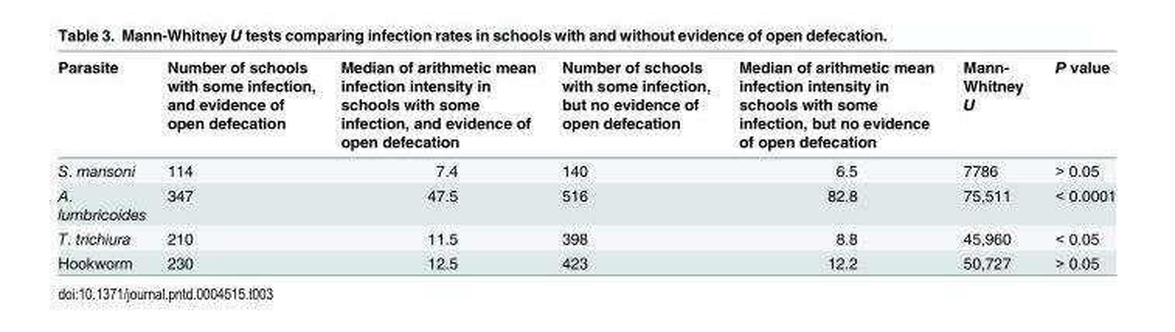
<table><thead><tr><td>Parasite</td><td>Number of schools with some infection, and evidence of open defecation</td><td>Median of arithmetic mean infection intensity in schools with some infection, and evidence of open defecation</td><td>Number of schools with some infection, but no evidence of open defecation</td><td>Median of arithmetic mean infection intensity in schools with some infection, but no evidence of open defecation</td><td>Mann- Whitney U</td><td>P value</td></tr></thead><tbody><tr><td>S. mansoni</td><td>114</td><td>7.4</td><td>140</td><td>6.5</td><td>7786</td><td>&gt; 0.05</td></tr><tr><td>A. lumbricoides</td><td>347</td><td>47.5</td><td>516</td><td>82.8</td><td>75,511</td><td>&lt; 0.0001</td></tr><tr><td>T. trichiura</td><td>210</td><td>11.5</td><td>398</td><td>8.8</td><td>45,960</td><td>&lt; 0.05</td></tr><tr><td>Hookworm</td><td>230</td><td>12.5</td><td>423</td><td>12.2</td><td>50,727</td><td>&gt; 0.05</td></tr></tbody></table>